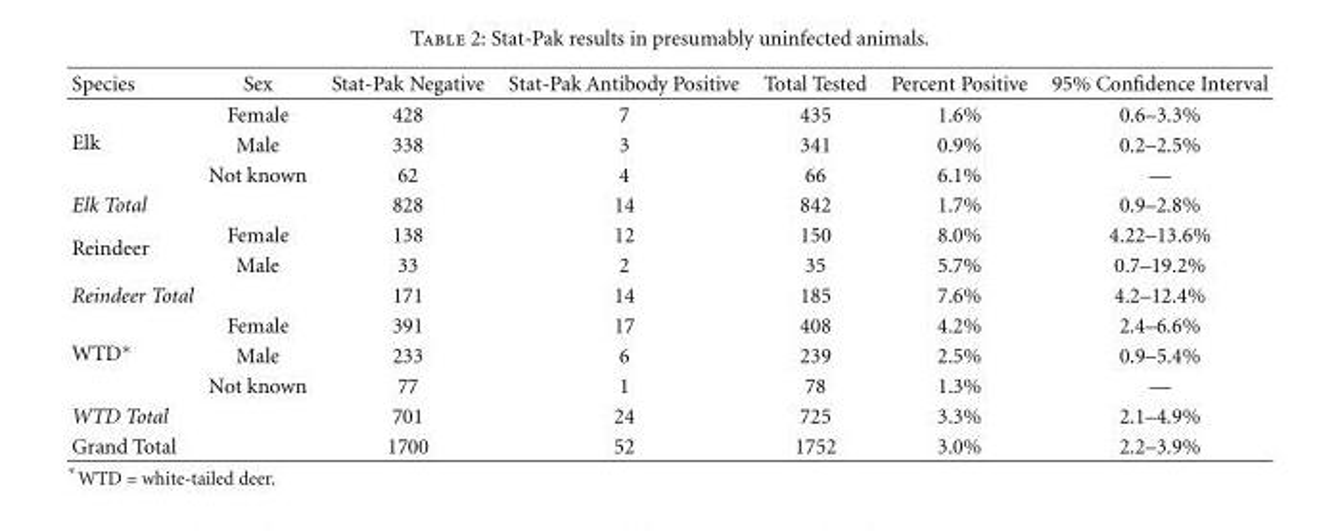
<table><thead><tr><td>Species</td><td>Sex</td><td>Stat-Pak Negative</td><td>Stat-Pak Antibody Positive</td><td>Total Tested</td><td>Percent Positive</td><td>95% Confidence Interval</td></tr></thead><tbody><tr><td rowspan="3">Elk</td><td>Female</td><td>428</td><td>7</td><td>435</td><td>1.6%</td><td>0.6–3.3%</td></tr><tr><td>Male</td><td>338</td><td>3</td><td>341</td><td>0.9%</td><td>0.2–2.5%</td></tr><tr><td>Not known</td><td>62</td><td>4</td><td>66</td><td>6.1%</td><td>—</td></tr><tr><td>Elk Total</td><td></td><td>828</td><td>14</td><td>842</td><td>1.7%</td><td>0.9–2.8%</td></tr><tr><td rowspan="2">Reindeer</td><td>Female</td><td>138</td><td>12</td><td>150</td><td>8.0%</td><td>4.22–13.6%</td></tr><tr><td>Male</td><td>33</td><td>2</td><td>35</td><td>5.7%</td><td>0.7–19.2%</td></tr><tr><td>Reindeer Total</td><td></td><td>171</td><td>14</td><td>185</td><td>7.6%</td><td>4.2–12.4%</td></tr><tr><td rowspan="3">WTD∗</td><td>Female</td><td>391</td><td>17</td><td>408</td><td>4.2%</td><td>2.4–6.6%</td></tr><tr><td>Male</td><td>233</td><td>6</td><td>239</td><td>2.5%</td><td>0.9–5.4%</td></tr><tr><td>Not known</td><td>77</td><td>1</td><td>78</td><td>1.3%</td><td>—</td></tr><tr><td>WTD Total</td><td></td><td>701</td><td>24</td><td>725</td><td>3.3%</td><td>2.1–4.9%</td></tr><tr><td>Grand Total</td><td></td><td>1700</td><td>52</td><td>1752</td><td>3.0%</td><td>2.2–3.9%</td></tr></tbody></table>